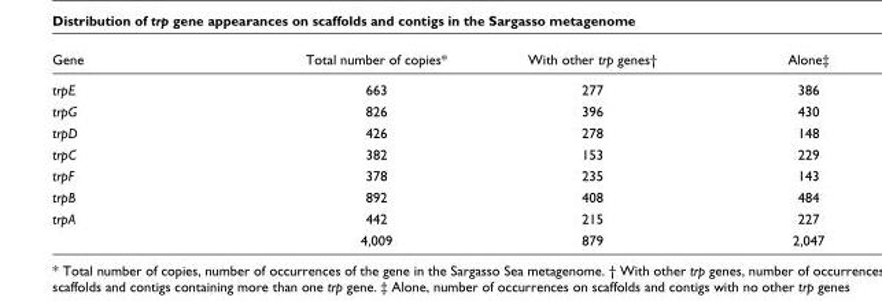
<table><thead><tr><td>Gene</td><td>Total number of copies*</td><td>With other trp genes†</td><td>Alone‡</td></tr></thead><tbody><tr><td>trpE</td><td>663</td><td>277</td><td>386</td></tr><tr><td>trpG</td><td>826</td><td>396</td><td>430</td></tr><tr><td>trpD</td><td>426</td><td>278</td><td>148</td></tr><tr><td>trpC</td><td>382</td><td>153</td><td>229</td></tr><tr><td>trpF</td><td>378</td><td>235</td><td>143</td></tr><tr><td>trpB</td><td>892</td><td>408</td><td>484</td></tr><tr><td rowspan="2">trpA</td><td>442</td><td>215</td><td>227</td></tr><tr><td>4,009</td><td>879</td><td>2,047</td></tr></tbody></table>